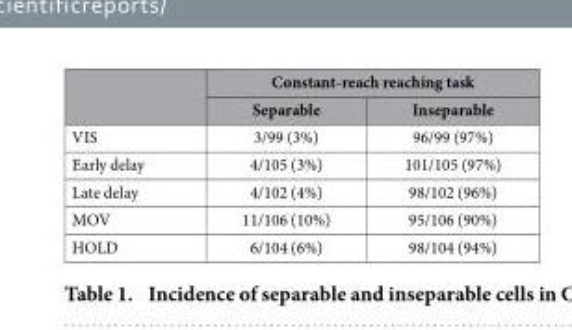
<table><thead><tr><td rowspan="2"></td><td colspan="2">Constant-reach reaching task</td></tr><tr><td>Separable</td><td>Inseparable</td></tr></thead><tbody><tr><td>VIS</td><td>3/99 (3%)</td><td>96/99 (97%)</td></tr><tr><td>Early delay</td><td>4/105 (3%)</td><td>101/105 (97%)</td></tr><tr><td>Late delay</td><td>4/102 (4%)</td><td>98/102 (96%)</td></tr><tr><td>MOV</td><td>11/106 (10%)</td><td>95/106 (90%)</td></tr><tr><td>HOLD</td><td>6/104 (6%)</td><td>98/104 (94%)</td></tr></tbody></table>